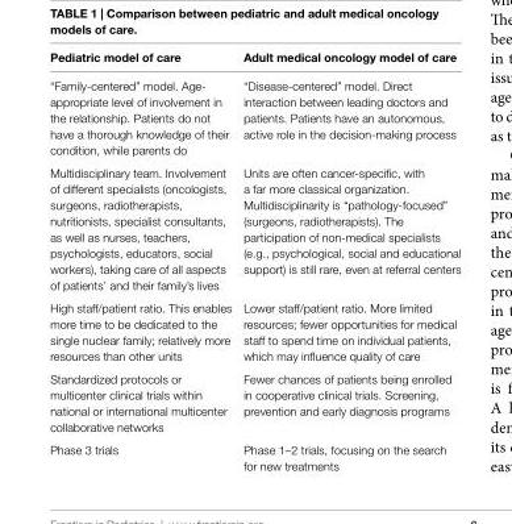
<table><thead><tr><td>Pediatric model of care</td><td>Adult medical oncology model of care</td></tr></thead><tbody><tr><td>“Family-centered” model. Age- appropriate level of involvement in the relationship. Patients do not have a thorough knowledge of their condition, while parents do</td><td>“Disease-centered” model. Direct interaction between leading doctors and patients. Patients have an autonomous, active role in the decision-making process</td></tr><tr><td>Multidisciplinary team. Involvement of different specialists (oncologists, surgeons, radiotherapists, nutritionists, specialist consultants, as well as nurses, teachers, psychologists, educators, social workers), taking care of all aspects of patients’ and their family’s lives</td><td>Units are often cancer-specific, with a far more classical organization. Multidisciplinarity is “pathology-focused” (surgeons, radiotherapists). The participation of non-medical specialists (e.g., psychological, social and educational support) is still rare, even at referral centers</td></tr><tr><td>High staff/patient ratio. This enables more time to be dedicated to the single nuclear family; relatively more resources than other units</td><td>Lower staff/patient ratio. More limited resources; fewer opportunities for medical staff to spend time on individual patients, which may influence quality of care</td></tr><tr><td>Standardized protocols or multicenter clinical trials within national or international multicenter collaborative networks</td><td>Fewer chances of patients being enrolled in cooperative clinical trials. Screening, prevention and early diagnosis programs</td></tr><tr><td>Phase 3 trials</td><td>Phase 1–2 trials, focusing on the search for new treatments</td></tr></tbody></table>